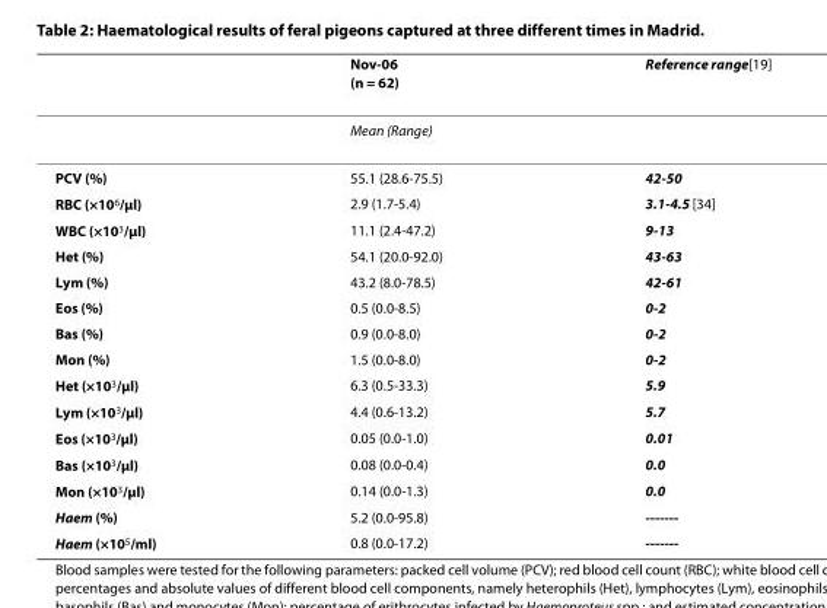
<table><thead><tr><td></td><td>Nov-06 (n = 62)</td><td>Reference range[19]</td></tr></thead><tbody><tr><td></td><td>Mean (Range)</td><td></td></tr><tr><td>PCV (%)</td><td>55.1 (28.6-75.5)</td><td>42-50</td></tr><tr><td>RBC (×10<sup>6</sup>/μl)</td><td>2.9 (1.7-5.4)</td><td>3.1-4.5 [34]</td></tr><tr><td>WBC (×10<sup>3</sup>/μl)</td><td>11.1 (2.4-47.2)</td><td>9-13</td></tr><tr><td>Het (%)</td><td>54.1 (20.0-92.0)</td><td>43-63</td></tr><tr><td>Lym (%)</td><td>43.2 (8.0-78.5)</td><td>42-61</td></tr><tr><td>Eos (%)</td><td>0.5 (0.0-8.5)</td><td>0-2</td></tr><tr><td>Bas (%)</td><td>0.9 (0.0-8.0)</td><td>0-2</td></tr><tr><td>Mon (%)</td><td>1.5 (0.0-8.0)</td><td>0-2</td></tr><tr><td>Het (×10<sup>3</sup>/μl)</td><td>6.3 (0.5-33.3)</td><td>5.9</td></tr><tr><td>Lym (×10<sup>3</sup>/μl)</td><td>4.4 (0.6-13.2)</td><td>5.7</td></tr><tr><td>Eos (×10<sup>3</sup>/μl)</td><td>0.05 (0.0-1.0)</td><td>0.01</td></tr><tr><td>Bas (×10<sup>3</sup>/μl)</td><td>0.08 (0.0-0.4)</td><td>0.0</td></tr><tr><td>Mon (×10<sup>3</sup>/μl)</td><td>0.14 (0.0-1.3)</td><td>0.0</td></tr><tr><td>Haem (%)</td><td>5.2 (0.0-95.8)</td><td>-------</td></tr><tr><td>Haem (×10<sup>5</sup>/ml)</td><td>0.8 (0.0-17.2)</td><td>-------</td></tr></tbody></table>